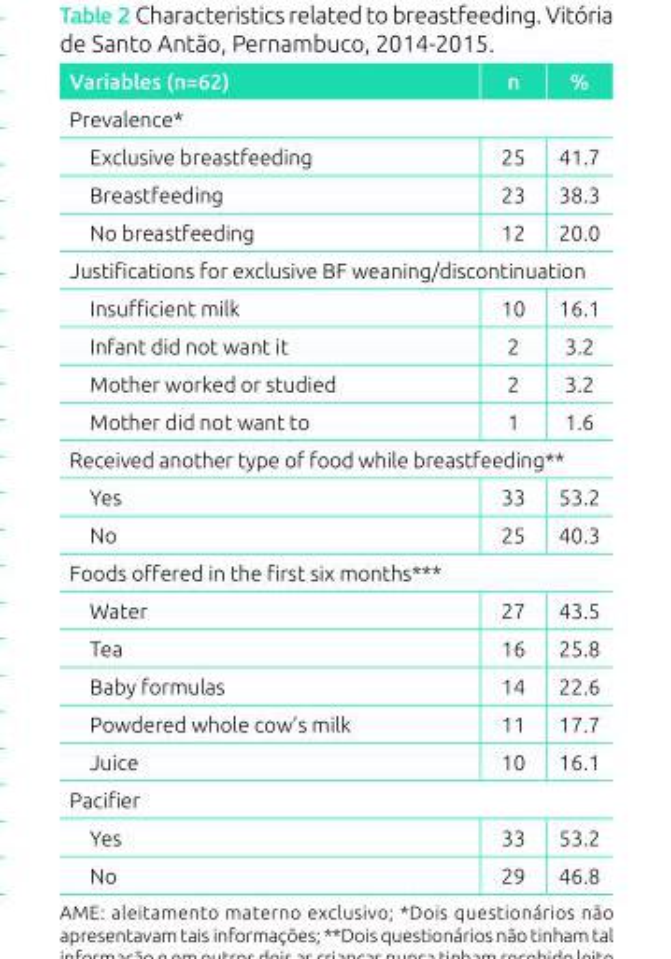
<table><thead><tr><td>Variables (n=62)</td><td>n</td><td>%</td></tr></thead><tbody><tr><td colspan="3">Prevalence*</td></tr><tr><td>Exclusive breastfeeding</td><td>25</td><td>41.7</td></tr><tr><td>Breastfeeding</td><td>23</td><td>38.3</td></tr><tr><td>No breastfeeding</td><td>12</td><td>20.0</td></tr><tr><td colspan="3">Justifications for exclusive BF weaning/discontinuation</td></tr><tr><td>Insufficient milk</td><td>10</td><td>16.1</td></tr><tr><td>Infant did not want it</td><td>2</td><td>3.2</td></tr><tr><td>Mother worked or studied</td><td>2</td><td>3.2</td></tr><tr><td>Mother did not want to</td><td>1</td><td>1.6</td></tr><tr><td colspan="3">Received another type of food while breastfeeding**</td></tr><tr><td>Yes</td><td>33</td><td>53.2</td></tr><tr><td>No</td><td>25</td><td>40.3</td></tr><tr><td colspan="3">Foods offered in the first six months***</td></tr><tr><td>Water</td><td>27</td><td>43.5</td></tr><tr><td>Tea</td><td>16</td><td>25.8</td></tr><tr><td>Baby formulas</td><td>14</td><td>22.6</td></tr><tr><td>Powdered whole cow’s milk</td><td>11</td><td>17.7</td></tr><tr><td>Juice</td><td>10</td><td>16.1</td></tr><tr><td colspan="3">Pacifier</td></tr><tr><td>Yes</td><td>33</td><td>53.2</td></tr><tr><td>No</td><td>29</td><td>46.8</td></tr></tbody></table>